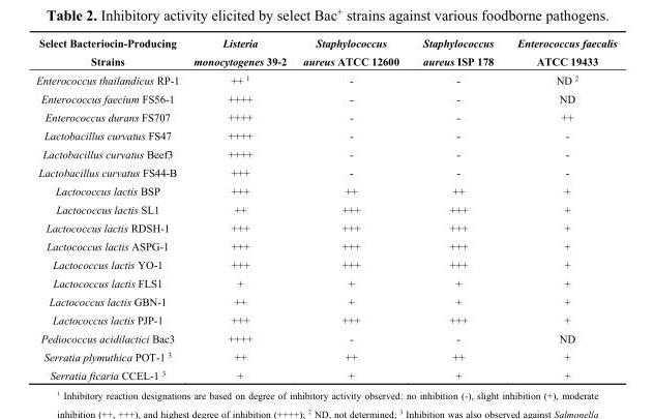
<table><thead><tr><td>Select Bacteriocin-Producing Strains</td><td>Listeria monocytogenes 39-2</td><td>Staphylococcus aureus ATCC 12600</td><td>Staphylococcus aureus ISP 178</td><td>Enterococcus faecalis ATCC 19433</td></tr></thead><tbody><tr><td>Enterococcus thailandicus RP-1</td><td>++ <sup>1</sup></td><td>-</td><td>-</td><td>ND <sup>2</sup></td></tr><tr><td>Enterococcus faecium FS56-1</td><td>++++</td><td>-</td><td>-</td><td>ND</td></tr><tr><td>Enterococcus durans FS707</td><td>++++</td><td>-</td><td>-</td><td>++</td></tr><tr><td>Lactobacillus curvatus FS47</td><td>++++</td><td>-</td><td>-</td><td>-</td></tr><tr><td>Lactobacillus curvatus Beef3</td><td>++++</td><td>-</td><td>-</td><td>-</td></tr><tr><td>Lactobacillus curvatus FS44-B</td><td>+++</td><td>-</td><td>-</td><td>-</td></tr><tr><td>Lactococcus lactis BSP</td><td>+++</td><td>++</td><td>++</td><td>+</td></tr><tr><td>Lactococcus lactis SL1</td><td>++</td><td>+++</td><td>+++</td><td>+</td></tr><tr><td>Lactococcus lactis RDSH-1</td><td>+++</td><td>+++</td><td>+++</td><td>+</td></tr><tr><td>Lactococcus lactis ASPG-1</td><td>+++</td><td>+++</td><td>+++</td><td>+</td></tr><tr><td>Lactococcus lactis YO-1</td><td>+++</td><td>+++</td><td>+++</td><td>+</td></tr><tr><td>Lactococcus lactis FLS1</td><td>+</td><td>+</td><td>+</td><td>+</td></tr><tr><td>Lactococcus lactis GBN-1</td><td>++</td><td>+</td><td>+</td><td>+</td></tr><tr><td>Lactococcus lactis PJP-1</td><td>+++</td><td>+++</td><td>+++</td><td>+</td></tr><tr><td>Pediococcus acidilactici Bac3</td><td>++++</td><td>-</td><td>-</td><td>ND</td></tr><tr><td>Serratia plymuthica POT-1 <sup>3</sup></td><td>++</td><td>++</td><td>++</td><td>+</td></tr><tr><td>Serratia ficaria CCEL-1 <sup>3</sup></td><td>+</td><td>+</td><td>+</td><td>+</td></tr></tbody></table>